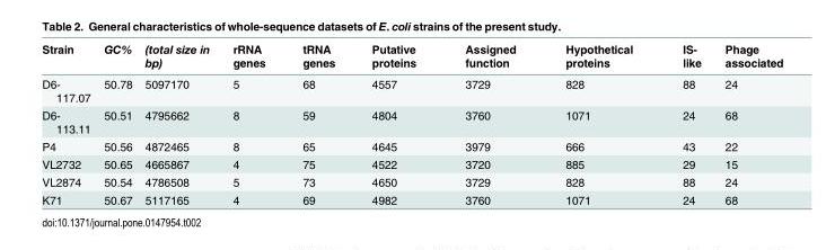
<table><thead><tr><td>Strain</td><td>GC%</td><td>(total size in bp)</td><td>rRNA genes</td><td>tRNA genes</td><td>Putative proteins</td><td>Assigned function</td><td>Hypothetical proteins</td><td>IS- like</td><td>Phage associated</td></tr></thead><tbody><tr><td>D6- 117.07</td><td>50.78</td><td>5097170</td><td>5</td><td>68</td><td>4557</td><td>3729</td><td>828</td><td>88</td><td>24</td></tr><tr><td>D6- 113.11</td><td>50.51</td><td>4795662</td><td>8</td><td>59</td><td>4804</td><td>3760</td><td>1071</td><td>24</td><td>68</td></tr><tr><td>P4</td><td>50.56</td><td>4872465</td><td>8</td><td>65</td><td>4645</td><td>3979</td><td>666</td><td>43</td><td>22</td></tr><tr><td>VL2732</td><td>50.65</td><td>4665867</td><td>4</td><td>75</td><td>4522</td><td>3720</td><td>885</td><td>29</td><td>15</td></tr><tr><td>VL2874</td><td>50.54</td><td>4786508</td><td>5</td><td>73</td><td>4650</td><td>3729</td><td>828</td><td>88</td><td>24</td></tr><tr><td>K71</td><td>50.67</td><td>5117165</td><td>4</td><td>69</td><td>4982</td><td>3760</td><td>1071</td><td>24</td><td>68</td></tr></tbody></table>